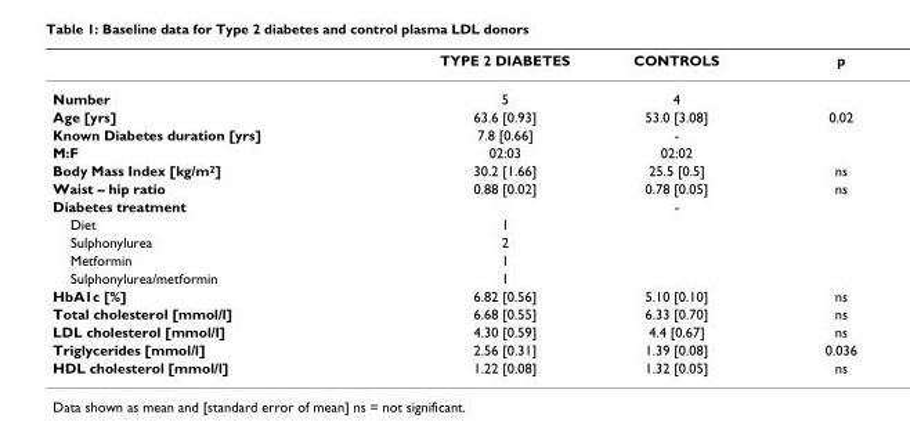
<table><thead><tr><td></td><td>TYPE 2 DIABETES</td><td>CONTROLS</td><td>p</td></tr></thead><tbody><tr><td>Number</td><td>5</td><td>4</td><td></td></tr><tr><td>Age [yrs]</td><td>63.6 [0.93]</td><td>53.0 [3.08]</td><td>0.02</td></tr><tr><td>Known Diabetes duration [yrs]</td><td>7.8 [0.66]</td><td>-</td><td></td></tr><tr><td>M:F</td><td>02:03</td><td>02:02</td><td></td></tr><tr><td>Body Mass Index [kg/m<sup>2</sup>]</td><td>30.2 [1.66]</td><td>25.5 [0.5]</td><td>ns</td></tr><tr><td>Waist – hip ratio</td><td>0.88 [0.02]</td><td>0.78 [0.05]</td><td>ns</td></tr><tr><td>Diabetes treatment</td><td></td><td>-</td><td></td></tr><tr><td>Diet</td><td>1</td><td></td><td></td></tr><tr><td>Sulphonylurea</td><td>2</td><td></td><td></td></tr><tr><td>Metformin</td><td>1</td><td></td><td></td></tr><tr><td>Sulphonylurea/metformin</td><td>1</td><td></td><td></td></tr><tr><td>HbA1c [%]</td><td>6.82 [0.56]</td><td>5.10 [0.10]</td><td>ns</td></tr><tr><td>Total cholesterol [mmol/l]</td><td>6.68 [0.55]</td><td>6.33 [0.70]</td><td>ns</td></tr><tr><td>LDL cholesterol [mmol/l]</td><td>4.30 [0.59]</td><td>4.4 [0.67]</td><td>ns</td></tr><tr><td>Triglycerides [mmol/l]</td><td>2.56 [0.31]</td><td>1.39 [0.08]</td><td>0.036</td></tr><tr><td>HDL cholesterol [mmol/l]</td><td>1.22 [0.08]</td><td>1.32 [0.05]</td><td>ns</td></tr></tbody></table>